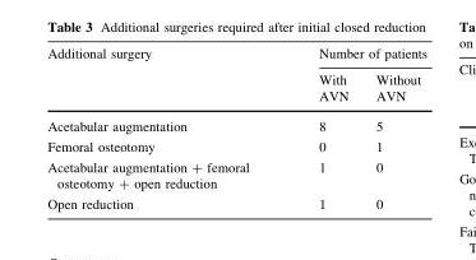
<table><thead><tr><td rowspan="2">Additional surgery</td><td colspan="2">Number of patients</td></tr><tr><td>With AVN</td><td>Without AVN</td></tr></thead><tbody><tr><td>Acetabular augmentation</td><td>8</td><td>5</td></tr><tr><td>Femoral osteotomy</td><td>0</td><td>1</td></tr><tr><td>Acetabular augmentation + femoral osteotomy + open reduction</td><td>1</td><td>0</td></tr><tr><td>Open reduction</td><td>1</td><td>0</td></tr></tbody></table>